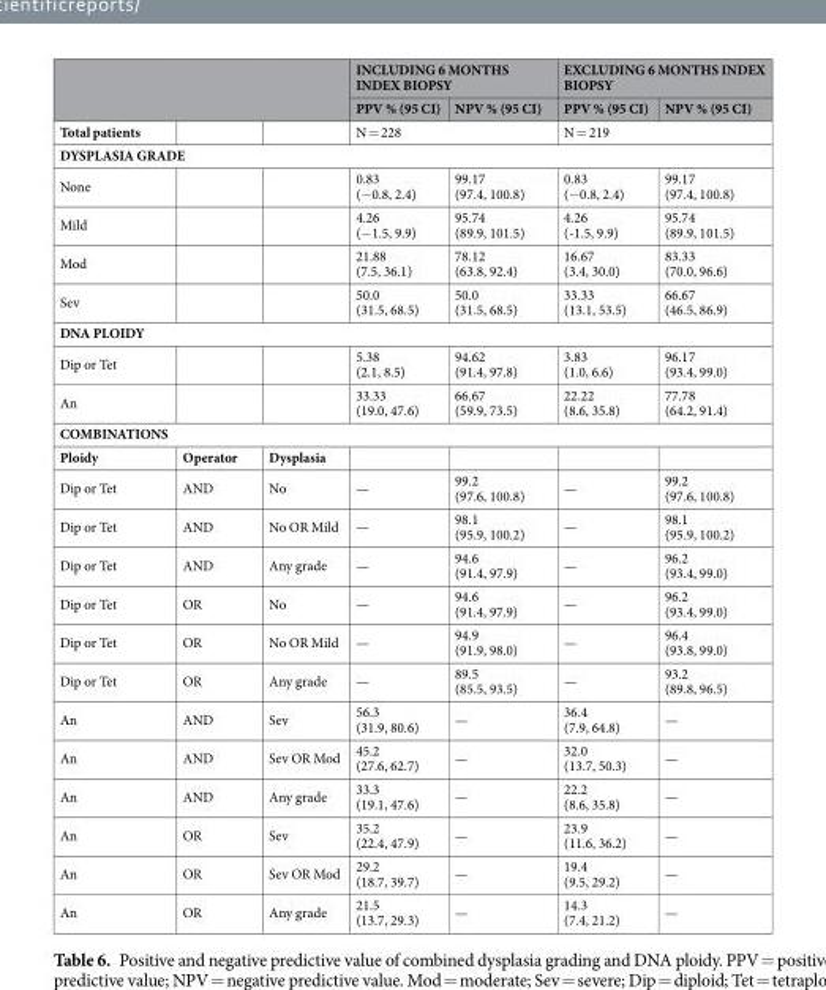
<table><thead><tr><td rowspan="2"></td><td rowspan="2"></td><td rowspan="2"></td><td colspan="2">INCLUDING 6 MONTHS INDEX BIOPSY</td><td colspan="2">EXCLUDING 6 MONTHS INDEX BIOPSY</td></tr><tr><td>PPV % (95 CI)</td><td>NPV % (95 CI)</td><td>PPV % (95 CI)</td><td>NPV % (95 CI)</td></tr></thead><tbody><tr><td>Total patients</td><td></td><td></td><td colspan="2">N = 228</td><td colspan="2">N = 219</td></tr><tr><td colspan="7">DYSPLASIA GRADE</td></tr><tr><td>None</td><td></td><td></td><td>0.83 (−0.8, 2.4)</td><td>99.17 (97.4, 100.8)</td><td>0.83 (−0.8, 2.4)</td><td>99.17 (97.4, 100.8)</td></tr><tr><td>Mild</td><td></td><td></td><td>4.26 (−1.5, 9.9)</td><td>95.74 (89.9, 101.5)</td><td>4.26 (-1.5, 9.9)</td><td>95.74 (89.9, 101.5)</td></tr><tr><td>Mod</td><td></td><td></td><td>21.88 (7.5, 36.1)</td><td>78.12 (63.8, 92.4)</td><td>16.67 (3.4, 30.0)</td><td>83.33 (70.0, 96.6)</td></tr><tr><td>Sev</td><td></td><td></td><td>50.0 (31.5, 68.5)</td><td>50.0 (31.5, 68.5)</td><td>33.33 (13.1, 53.5)</td><td>66.67 (46.5, 86.9)</td></tr><tr><td colspan="7">DNA PLOIDY</td></tr><tr><td>Dip or Tet</td><td></td><td></td><td>5.38 (2.1, 8.5)</td><td>94.62 (91.4, 97.8)</td><td>3.83 (1.0, 6.6)</td><td>96.17 (93.4, 99.0)</td></tr><tr><td>An</td><td></td><td></td><td>33.33 (19.0, 47.6)</td><td>66.67 (59.9, 73.5)</td><td>22.22 (8.6, 35.8)</td><td>77.78 (64.2, 91.4)</td></tr><tr><td colspan="7">COMBINATIONS</td></tr><tr><td>Ploidy</td><td>Operator</td><td>Dysplasia</td><td></td><td></td><td></td><td></td></tr><tr><td>Dip or Tet</td><td>AND</td><td>No</td><td>—</td><td>99.2 (97.6, 100.8)</td><td>—</td><td>99.2 (97.6, 100.8)</td></tr><tr><td>Dip or Tet</td><td>AND</td><td>No OR Mild</td><td>—</td><td>98.1 (95.9, 100.2)</td><td>—</td><td>98.1 (95.9, 100.2)</td></tr><tr><td>Dip or Tet</td><td>AND</td><td>Any grade</td><td>—</td><td>94.6 (91.4, 97.9)</td><td>—</td><td>96.2 (93.4, 99.0)</td></tr><tr><td>Dip or Tet</td><td>OR</td><td>No</td><td>—</td><td>94.6 (91.4, 97.9)</td><td>—</td><td>96.2 (93.4, 99.0)</td></tr><tr><td>Dip or Tet</td><td>OR</td><td>No OR Mild</td><td>—</td><td>94.9 (91.9, 98.0)</td><td>—</td><td>96.4 (93.8, 99.0)</td></tr><tr><td>Dip or Tet</td><td>OR</td><td>Any grade</td><td>—</td><td>89.5 (85.5, 93.5)</td><td>—</td><td>93.2 (89.8, 96.5)</td></tr><tr><td>An</td><td>AND</td><td>Sev</td><td>56.3 (31.9, 80.6)</td><td>—</td><td>36.4 (7.9, 64.8)</td><td>—</td></tr><tr><td>An</td><td>AND</td><td>Sev OR Mod</td><td>45.2 (27.6, 62.7)</td><td>—</td><td>32.0 (13.7, 50.3)</td><td>—</td></tr><tr><td>An</td><td>AND</td><td>Any grade</td><td>33.3 (19.1, 47.6)</td><td>—</td><td>22.2 (8.6, 35.8)</td><td>—</td></tr><tr><td>An</td><td>OR</td><td>Sev</td><td>35.2 (22.4, 47.9)</td><td>—</td><td>23.9 (11.6, 36.2)</td><td>—</td></tr><tr><td>An</td><td>OR</td><td>Sev OR Mod</td><td>29.2 (18.7, 39.7)</td><td>—</td><td>19.4 (9.5, 29.2)</td><td>—</td></tr><tr><td>An</td><td>OR</td><td>Any grade</td><td>21.5 (13.7, 29.3)</td><td>—</td><td>14.3 (7.4, 21.2)</td><td>—</td></tr></tbody></table>